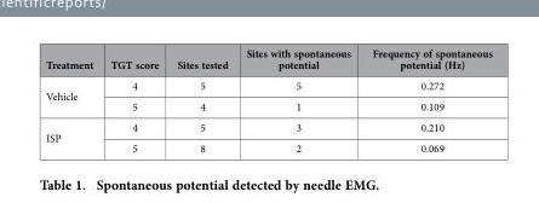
<table><thead><tr><td>Treatment</td><td>TGT score</td><td>Sites tested</td><td>Sites with spontaneous potential</td><td>Frequency of spontaneous potential (Hz)</td></tr></thead><tbody><tr><td rowspan="2">Vehicle</td><td>4</td><td>5</td><td>5</td><td>0.272</td></tr><tr><td>5</td><td>4</td><td>1</td><td>0.109</td></tr><tr><td rowspan="2">ISP</td><td>4</td><td>5</td><td>3</td><td>0.210</td></tr><tr><td>5</td><td>8</td><td>2</td><td>0.069</td></tr></tbody></table>